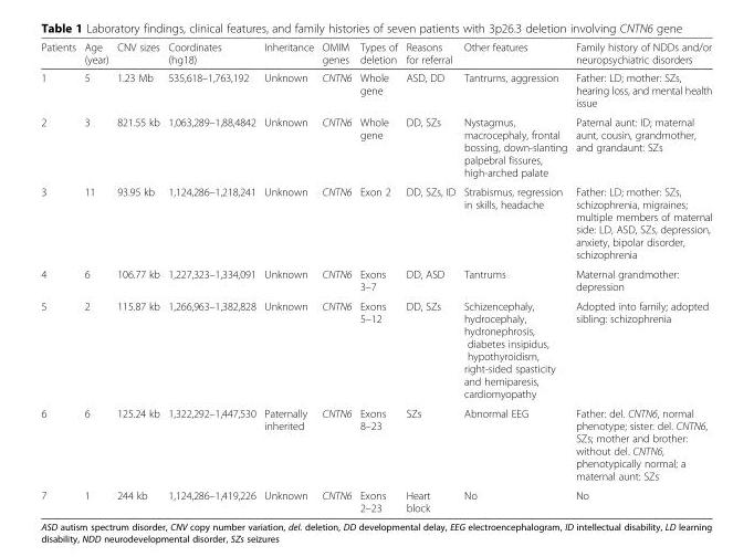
<table><thead><tr><td>Patients</td><td>Age (year)</td><td>CNV sizes</td><td>Coordinates (hg18)</td><td>Inheritance</td><td>OMIM genes</td><td>Types of deletion</td><td>Reasons for referral</td><td>Other features</td><td>Family history of NDDs and/or neuropsychiatric disorders</td></tr></thead><tbody><tr><td>1</td><td>5</td><td>1.23 Mb</td><td>535,618–1,763,192</td><td>Unknown</td><td>CNTN6</td><td>Whole gene</td><td>ASD, DD</td><td>Tantrums, aggression</td><td>Father: LD; mother: SZs, hearing loss, and mental health issue</td></tr><tr><td>2</td><td>3</td><td>821.55 kb</td><td>1,063,289–1,88,4842</td><td>Unknown</td><td>CNTN6</td><td>Whole gene</td><td>DD, SZs</td><td>Nystagmus, macrocephaly, frontal bossing, down-slanting palpebral fissures, high-arched palate</td><td>Paternal aunt: ID; maternal aunt, cousin, grandmother, and grandaunt: SZs</td></tr><tr><td>3</td><td>11</td><td>93.95 kb</td><td>1,124,286–1,218,241</td><td>Unknown</td><td>CNTN6</td><td>Exon 2</td><td>DD, SZs, ID</td><td>Strabismus, regression in skills, headache</td><td>Father: LD; mother: SZs, schizophrenia, migraines; multiple members of maternal side: LD, ASD, SZs, depression, anxiety, bipolar disorder, schizophrenia</td></tr><tr><td>4</td><td>6</td><td>106.77 kb</td><td>1,227,323–1,334,091</td><td>Unknown</td><td>CNTN6</td><td>Exons 3–7</td><td>DD, ASD</td><td>Tantrums</td><td>Maternal grandmother: depression</td></tr><tr><td>5</td><td>2</td><td>115.87 kb</td><td>1,266,963–1,382,828</td><td>Unknown</td><td>CNTN6</td><td>Exons 5–12</td><td>DD, SZs</td><td>Schizencephaly, hydrocephaly, hydronephrosis, diabetes insipidus, hypothyroidism, right-sided spasticity and hemiparesis, cardiomyopathy</td><td>Adopted into family; adopted sibling: schizophrenia</td></tr><tr><td>6</td><td>6</td><td>125.24 kb</td><td>1,322,292–1,447,530</td><td>Paternally inherited</td><td>CNTN6</td><td>Exons 8–23</td><td>SZs</td><td>Abnormal EEG</td><td>Father: del. CNTN6, normal phenotype; sister: del. CNTN6, SZs; mother and brother: without del. CNTN6, phenotypically normal; a maternal aunt: SZs</td></tr><tr><td>7</td><td>1</td><td>244 kb</td><td>1,124,286–1,419,226</td><td>Unknown</td><td>CNTN6</td><td>Exons 2–23</td><td>Heart block</td><td>No</td><td>No</td></tr></tbody></table>